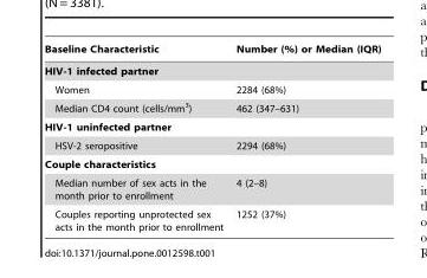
<table><thead><tr><td>Baseline Characteristic</td><td>Number (%) or Median (IQR)</td></tr></thead><tbody><tr><td colspan="2">HIV-1 infected partner</td></tr><tr><td>Women</td><td>2284 (68%)</td></tr><tr><td>Median CD4 count (cells/mm<sup>3</sup>)</td><td>462 (347–631)</td></tr><tr><td colspan="2">HIV-1 uninfected partner</td></tr><tr><td>HSV-2 seropositive</td><td>2294 (68%)</td></tr><tr><td colspan="2">Couple characteristics</td></tr><tr><td>Median number of sex acts in the month prior to enrollment</td><td>4 (2–8)</td></tr><tr><td>Couples reporting unprotected sex acts in the month prior to enrollment</td><td>1252 (37%)</td></tr></tbody></table>